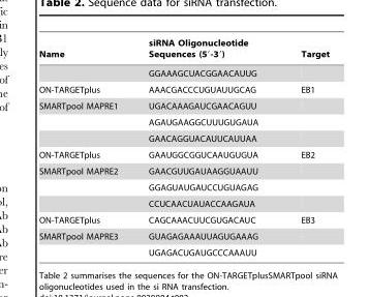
<table><thead><tr><td>Name</td><td>siRNA Oligonucleotide Sequences (5′-3′)</td><td>Target</td></tr></thead><tbody><tr><td></td><td>GGAAAGCUACGGAACAUUG</td><td></td></tr><tr><td>ON-TARGETplus</td><td>AAACGACCCUGUAUUGCAG</td><td>EB1</td></tr><tr><td rowspan="3">SMARTpool MAPRE1</td><td>UGACAAAGAUCGAACAGUU</td><td></td></tr><tr><td>AGAUGAAGGCUUUGUGAUA</td><td></td></tr><tr><td>GAACAGGUACAUUCAUUAA</td><td></td></tr><tr><td>ON-TARGETplus</td><td>GAAUGGCGGUCAAUGUGUA</td><td>EB2</td></tr><tr><td rowspan="3">SMARTpool MAPRE2</td><td>GAACGUUGAUAAGGUAAUU</td><td></td></tr><tr><td>GGAGUAUGAUCCUGUAGAG</td><td></td></tr><tr><td>CCUCAACUAUACCAAGAUA</td><td></td></tr><tr><td>ON-TARGETplus</td><td>CAGCAAACUUCGUGACAUC</td><td>EB3</td></tr><tr><td rowspan="2">SMARTpool MAPRE3</td><td>GUAGAGAAAUUAGUGAAAG</td><td></td></tr><tr><td>UGAGACUGAUGCCCAAAUU</td><td></td></tr></tbody></table>